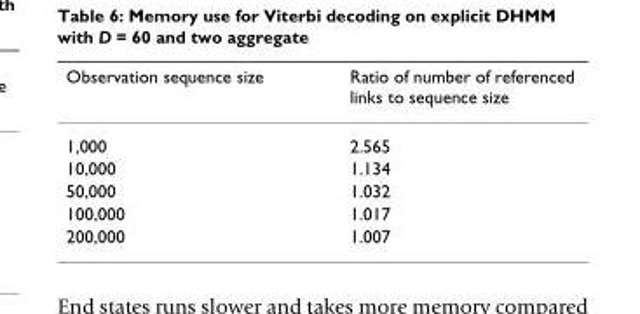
<table><thead><tr><td>Observation sequence size</td><td>Ratio of number of referenced links to sequence size</td></tr></thead><tbody><tr><td>1,000</td><td>2.565</td></tr><tr><td>10,000</td><td>1.134</td></tr><tr><td>50,000</td><td>1.032</td></tr><tr><td>100,000</td><td>1.017</td></tr><tr><td>200,000</td><td>1.007</td></tr></tbody></table>